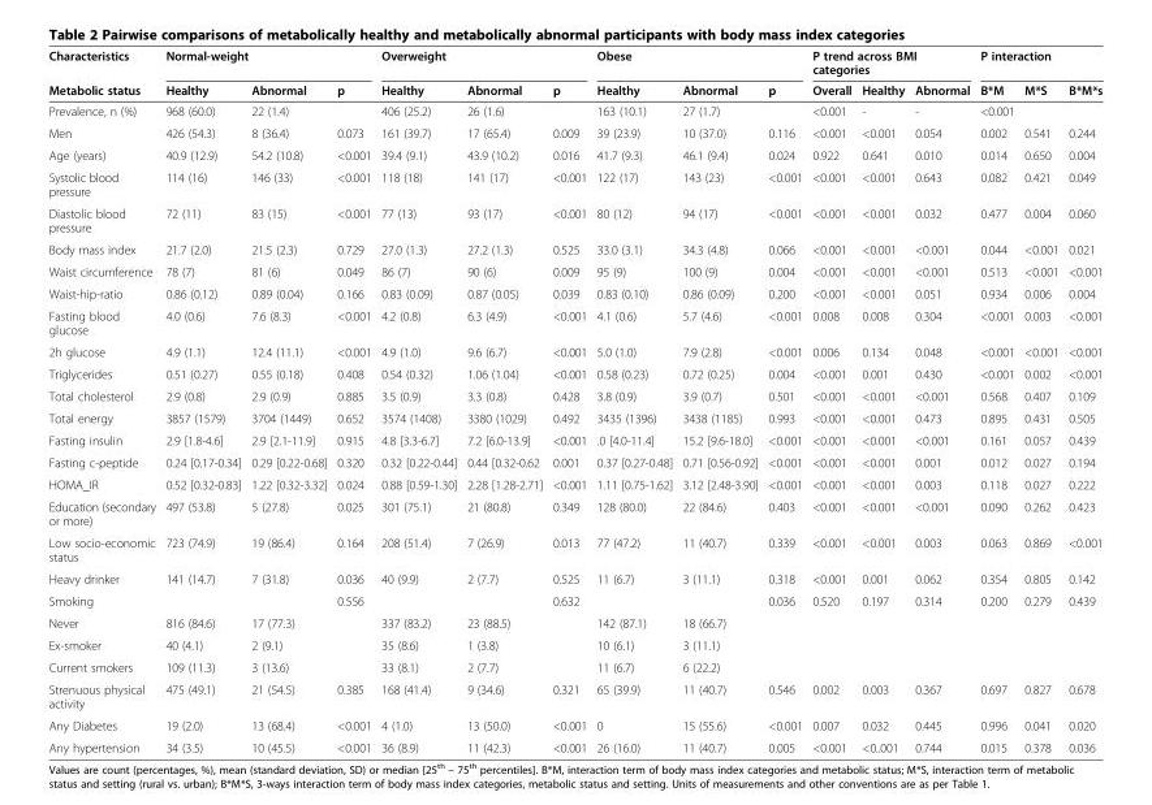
<table><thead><tr><td rowspan="2">Characteristics Metabolic status</td><td colspan="3">Normal-weight</td><td colspan="3">Overweight</td><td colspan="3">Obese</td><td colspan="3">P trend across BMI categories</td><td colspan="3">P interaction</td></tr><tr><td>Healthy</td><td>Abnormal</td><td>p</td><td>Healthy</td><td>Abnormal</td><td>p</td><td>Healthy</td><td>Abnormal</td><td>p</td><td>Overall</td><td>Healthy</td><td>Abnormal</td><td>B*M</td><td>M*S</td><td>B*M*s</td></tr></thead><tbody><tr><td>Prevalence, n (%)</td><td>968 (60.0)</td><td>22 (1.4)</td><td></td><td>406 (25.2)</td><td>26 (1.6)</td><td></td><td>163 (10.1)</td><td>27 (1.7)</td><td></td><td>&lt;0.001</td><td>-</td><td>-</td><td>&lt;0.001</td><td></td><td></td></tr><tr><td>Men</td><td>426 (54.3)</td><td>8 (36.4)</td><td>0.073</td><td>161 (39.7)</td><td>17 (65.4)</td><td>0.009</td><td>39 (23.9)</td><td>10 (37.0)</td><td>0.116</td><td>&lt;0.001</td><td>&lt;0.001</td><td>0.054</td><td>0.002</td><td>0.541</td><td>0.244</td></tr><tr><td>Age (years)</td><td>40.9 (12.9)</td><td>54.2 (10.8)</td><td>&lt;0.001</td><td>39.4 (9.1)</td><td>43.9 (10.2)</td><td>0.016</td><td>41.7 (9.3)</td><td>46.1 (9.4)</td><td>0.024</td><td>0.922</td><td>0.641</td><td>0.010</td><td>0.014</td><td>0.650</td><td>0.004</td></tr><tr><td>Systolic blood pressure</td><td>114 (16)</td><td>146 (33)</td><td>&lt;0.001</td><td>118 (18)</td><td>141 (17)</td><td>&lt;0.001</td><td>122 (17)</td><td>143 (23)</td><td>&lt;0.001</td><td>&lt;0.001</td><td>&lt;0.001</td><td>0.643</td><td>0.082</td><td>0.421</td><td>0.049</td></tr><tr><td>Diastolic blood pressure</td><td>72 (11)</td><td>83 (15)</td><td>&lt;0.001</td><td>77 (13)</td><td>93 (17)</td><td>&lt;0.001</td><td>80 (12)</td><td>94 (17)</td><td>&lt;0.001</td><td>&lt;0.001</td><td>&lt;0.001</td><td>0.032</td><td>0.477</td><td>0.004</td><td>0.060</td></tr><tr><td>Body mass index</td><td>21.7 (2.0)</td><td>21.5 (2.3)</td><td>0.729</td><td>27.0 (1.3)</td><td>27.2 (1.3)</td><td>0.525</td><td>33.0 (3.1)</td><td>34.3 (4.8)</td><td>0.066</td><td>&lt;0.001</td><td>&lt;0.001</td><td>&lt;0.001</td><td>0.044</td><td>&lt;0.001</td><td>0.021</td></tr><tr><td>Waist circumference</td><td>78 (7)</td><td>81 (6)</td><td>0.049</td><td>86 (7)</td><td>90 (6)</td><td>0.009</td><td>95 (9)</td><td>100 (9)</td><td>0.004</td><td>&lt;0.001</td><td>&lt;0.001</td><td>&lt;0.001</td><td>0.513</td><td>&lt;0.001</td><td>&lt;0.001</td></tr><tr><td>Waist-hip-ratio</td><td>0.86 (0.12)</td><td>0.89 (0.04)</td><td>0.166</td><td>0.83 (0.09)</td><td>0.87 (0.05)</td><td>0.039</td><td>0.83 (0.10)</td><td>0.86 (0.09)</td><td>0.200</td><td>&lt;0.001</td><td>&lt;0.001</td><td>0.051</td><td>0.934</td><td>0.006</td><td>0.004</td></tr><tr><td>Fasting blood glucose</td><td>4.0 (0.6)</td><td>7.6 (8.3)</td><td>&lt;0.001</td><td>4.2 (0.8)</td><td>6.3 (4.9)</td><td>&lt;0.001</td><td>4.1 (0.6)</td><td>5.7 (4.6)</td><td>&lt;0.001</td><td>0.008</td><td>0.008</td><td>0.304</td><td>&lt;0.001</td><td>0.003</td><td>&lt;0.001</td></tr><tr><td>2h glucose</td><td>4.9 (1.1)</td><td>12.4 (11.1)</td><td>&lt;0.001</td><td>4.9 (1.0)</td><td>9.6 (6.7)</td><td>&lt;0.001</td><td>5.0 (1.0)</td><td>7.9 (2.8)</td><td>&lt;0.001</td><td>0.006</td><td>0.134</td><td>0.048</td><td>&lt;0.001</td><td>&lt;0.001</td><td>&lt;0.001</td></tr><tr><td>Triglycerides</td><td>0.51 (0.27)</td><td>0.55 (0.18)</td><td>0.408</td><td>0.54 (0.32)</td><td>1.06 (1.04)</td><td>&lt;0.001</td><td>0.58 (0.23)</td><td>0.72 (0.25)</td><td>0.004</td><td>&lt;0.001</td><td>0.001</td><td>0.430</td><td>&lt;0.001</td><td>0.002</td><td>&lt;0.001</td></tr><tr><td>Total cholesterol</td><td>2.9 (0.8)</td><td>2.9 (0.9)</td><td>0.885</td><td>3.5 (0.9)</td><td>3.3 (0.8)</td><td>0.428</td><td>3.8 (0.9)</td><td>3.9 (0.7)</td><td>0.501</td><td>&lt;0.001</td><td>&lt;0.001</td><td>&lt;0.001</td><td>0.568</td><td>0.407</td><td>0.109</td></tr><tr><td>Total energy</td><td>3857 (1579)</td><td>3704 (1449)</td><td>0.652</td><td>3574 (1408)</td><td>3380 (1029)</td><td>0.492</td><td>3435 (1396)</td><td>3438 (1185)</td><td>0.993</td><td>&lt;0.001</td><td>&lt;0.001</td><td>0.473</td><td>0.895</td><td>0.431</td><td>0.505</td></tr><tr><td>Fasting insulin</td><td>2.9 [1.8-4.6]</td><td>2.9 [2.1-11.9]</td><td>0.915</td><td>4.8 [3.3-6.7]</td><td>7.2 [6.0-13.9]</td><td>&lt;0.001</td><td>.0 [4.0-11.4]</td><td>15.2 [9.6-18.0]</td><td>&lt;0.001</td><td>&lt;0.001</td><td>&lt;0.001</td><td>&lt;0.001</td><td>0.161</td><td>0.057</td><td>0.439</td></tr><tr><td>Fasting c-peptide</td><td>0.24 [0.17-0.34]</td><td>0.29 [0.22-0.68]</td><td>0.320</td><td>0.32 [0.22-0.44]</td><td>0.44 [0.32-0.62</td><td>0.001</td><td>0.37 [0.27-0.48]</td><td>0.71 [0.56-0.92]</td><td>&lt;0.001</td><td>&lt;0.001</td><td>&lt;0.001</td><td>0.001</td><td>0.012</td><td>0.027</td><td>0.194</td></tr><tr><td>HOMA_IR</td><td>0.52 [0.32-0.83]</td><td>1.22 [0.32-3.32]</td><td>0.024</td><td>0.88 [0.59-1.30]</td><td>2.28 [1.28-2.71]</td><td>&lt;0.001</td><td>1.11 [0.75-1.62]</td><td>3.12 [2.48-3.90]</td><td>&lt;0.001</td><td>&lt;0.001</td><td>&lt;0.001</td><td>0.003</td><td>0.118</td><td>0.027</td><td>0.222</td></tr><tr><td>Education (secondary or more)</td><td>497 (53.8)</td><td>5 (27.8)</td><td>0.025</td><td>301 (75.1)</td><td>21 (80.8)</td><td>0.349</td><td>128 (80.0)</td><td>22 (84.6)</td><td>0.403</td><td>&lt;0.001</td><td>&lt;0.001</td><td>&lt;0.001</td><td>0.090</td><td>0.262</td><td>0.423</td></tr><tr><td>Low socio-economic status</td><td>723 (74.9)</td><td>19 (86.4)</td><td>0.164</td><td>208 (51.4)</td><td>7 (26.9)</td><td>0.013</td><td>77 (47.2)</td><td>11 (40.7)</td><td>0.339</td><td>&lt;0.001</td><td>&lt;0.001</td><td>0.003</td><td>0.063</td><td>0.869</td><td>&lt;0.001</td></tr><tr><td>Heavy drinker</td><td>141 (14.7)</td><td>7 (31.8)</td><td>0.036</td><td>40 (9.9)</td><td>2 (7.7)</td><td>0.525</td><td>11 (6.7)</td><td>3 (11.1)</td><td>0.318</td><td>&lt;0.001</td><td>0.001</td><td>0.062</td><td>0.354</td><td>0.805</td><td>0.142</td></tr><tr><td>Smoking</td><td></td><td></td><td>0.556</td><td></td><td></td><td>0.632</td><td></td><td></td><td>0.036</td><td>0.520</td><td>0.197</td><td>0.314</td><td>0.200</td><td>0.279</td><td>0.439</td></tr><tr><td>Never</td><td>816 (84.6)</td><td>17 (77.3)</td><td></td><td>337 (83.2)</td><td>23 (88.5)</td><td></td><td>142 (87.1)</td><td>18 (66.7)</td><td></td><td></td><td></td><td></td><td></td><td></td><td></td></tr><tr><td>Ex-smoker</td><td>40 (4.1)</td><td>2 (9.1)</td><td></td><td>35 (8.6)</td><td>1 (3.8)</td><td></td><td>10 (6.1)</td><td>3 (11.1)</td><td></td><td></td><td></td><td></td><td></td><td></td><td></td></tr><tr><td>Current smokers</td><td>109 (11.3)</td><td>3 (13.6)</td><td></td><td>33 (8.1)</td><td>2 (7.7)</td><td></td><td>11 (6.7)</td><td>6 (22.2)</td><td></td><td></td><td></td><td></td><td></td><td></td><td></td></tr><tr><td>Strenuous physical activity</td><td>475 (49.1)</td><td>21 (54.5)</td><td>0.385</td><td>168 (41.4)</td><td>9 (34.6)</td><td>0.321</td><td>65 (39.9)</td><td>11 (40.7)</td><td>0.546</td><td>0.002</td><td>0.003</td><td>0.367</td><td>0.697</td><td>0.827</td><td>0.678</td></tr><tr><td>Any Diabetes</td><td>19 (2.0)</td><td>13 (68.4)</td><td>&lt;0.001</td><td>4 (1.0)</td><td>13 (50.0)</td><td>&lt;0.001</td><td>0</td><td>15 (55.6)</td><td>&lt;0.001</td><td>0.007</td><td>0.032</td><td>0.445</td><td>0.996</td><td>0.041</td><td>0.020</td></tr><tr><td>Any hypertension</td><td>34 (3.5)</td><td>10 (45.5)</td><td>&lt;0.001</td><td>36 (8.9)</td><td>11 (42.3)</td><td>&lt;0.001</td><td>26 (16.0)</td><td>11 (40.7)</td><td>0.005</td><td>&lt;0.001</td><td>&lt;0..001</td><td>0.744</td><td>0.015</td><td>0.378</td><td>0.036</td></tr></tbody></table>